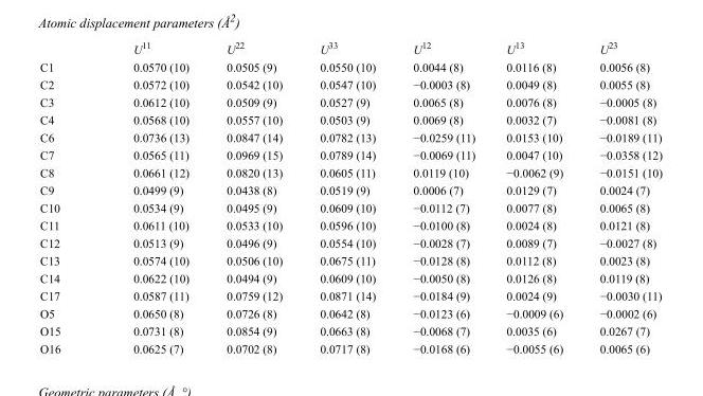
<table><thead><tr><td></td><td>U<sup>11</sup></td><td>U<sup>22</sup></td><td>U<sup>33</sup></td><td>U<sup>12</sup></td><td>U<sup>13</sup></td><td>U<sup>23</sup></td></tr></thead><tbody><tr><td>C1</td><td>0.0570 (10)</td><td>0.0505 (9)</td><td>0.0550 (10)</td><td>0.0044 (8)</td><td>0.0116 (8)</td><td>0.0056 (8)</td></tr><tr><td>C2</td><td>0.0572 (10)</td><td>0.0542 (10)</td><td>0.0547 (10)</td><td>−0.0003 (8)</td><td>0.0049 (8)</td><td>0.0055 (8)</td></tr><tr><td>C3</td><td>0.0612 (10)</td><td>0.0509 (9)</td><td>0.0527 (9)</td><td>0.0065 (8)</td><td>0.0076 (8)</td><td>−0.0005 (8)</td></tr><tr><td>C4</td><td>0.0568 (10)</td><td>0.0557 (10)</td><td>0.0503 (9)</td><td>0.0069 (8)</td><td>0.0032 (7)</td><td>−0.0081 (8)</td></tr><tr><td>C6</td><td>0.0736 (13)</td><td>0.0847 (14)</td><td>0.0782 (13)</td><td>−0.0259 (11)</td><td>0.0153 (10)</td><td>−0.0189 (11)</td></tr><tr><td>C7</td><td>0.0565 (11)</td><td>0.0969 (15)</td><td>0.0789 (14)</td><td>−0.0069 (11)</td><td>0.0047 (10)</td><td>−0.0358 (12)</td></tr><tr><td>C8</td><td>0.0661 (12)</td><td>0.0820 (13)</td><td>0.0605 (11)</td><td>0.0119 (10)</td><td>−0.0062 (9)</td><td>−0.0151 (10)</td></tr><tr><td>C9</td><td>0.0499 (9)</td><td>0.0438 (8)</td><td>0.0519 (9)</td><td>0.0006 (7)</td><td>0.0129 (7)</td><td>0.0024 (7)</td></tr><tr><td>C10</td><td>0.0534 (9)</td><td>0.0495 (9)</td><td>0.0609 (10)</td><td>−0.0112 (7)</td><td>0.0077 (8)</td><td>0.0065 (8)</td></tr><tr><td>C11</td><td>0.0611 (10)</td><td>0.0533 (10)</td><td>0.0596 (10)</td><td>−0.0100 (8)</td><td>0.0024 (8)</td><td>0.0121 (8)</td></tr><tr><td>C12</td><td>0.0513 (9)</td><td>0.0496 (9)</td><td>0.0554 (10)</td><td>−0.0028 (7)</td><td>0.0089 (7)</td><td>−0.0027 (8)</td></tr><tr><td>C13</td><td>0.0574 (10)</td><td>0.0506 (10)</td><td>0.0675 (11)</td><td>−0.0128 (8)</td><td>0.0112 (8)</td><td>0.0023 (8)</td></tr><tr><td>C14</td><td>0.0622 (10)</td><td>0.0494 (9)</td><td>0.0609 (10)</td><td>−0.0050 (8)</td><td>0.0126 (8)</td><td>0.0119 (8)</td></tr><tr><td>C17</td><td>0.0587 (11)</td><td>0.0759 (12)</td><td>0.0871 (14)</td><td>−0.0184 (9)</td><td>0.0024 (9)</td><td>−0.0030 (11)</td></tr><tr><td>O5</td><td>0.0650 (8)</td><td>0.0726 (8)</td><td>0.0642 (8)</td><td>−0.0123 (6)</td><td>−0.0009 (6)</td><td>−0.0002 (6)</td></tr><tr><td>O15</td><td>0.0731 (8)</td><td>0.0854 (9)</td><td>0.0663 (8)</td><td>−0.0068 (7)</td><td>0.0035 (6)</td><td>0.0267 (7)</td></tr><tr><td>O16</td><td>0.0625 (7)</td><td>0.0702 (8)</td><td>0.0717 (8)</td><td>−0.0168 (6)</td><td>−0.0055 (6)</td><td>0.0065 (6)</td></tr></tbody></table>